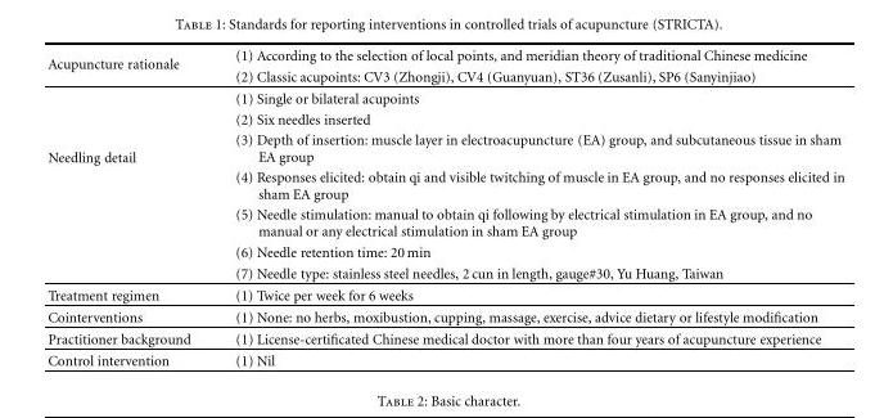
<table><thead><tr><td rowspan="2">Acupuncture rationale</td><td rowspan="2">(1) According to the selection of local points, and meridian theory of traditional Chinese medicine (2) Classic acupoints: CV3 (Zhongji), CV4 (Guanyuan), ST36 (Zusanli), SP6 (Sanyinjiao)</td></tr><tr></tr></thead><tbody><tr><td rowspan="7">Needling detail</td><td>(1) Single or bilateral acupoints</td></tr><tr><td>(2) Six needles inserted</td></tr><tr><td>(3) Depth of insertion: muscle layer in electroacupuncture (EA) group, and subcutaneous tissue in sham EA group</td></tr><tr><td>(4) Responses elicited: obtain qi and visible twitching of muscle in EA group, and no responses elicited in sham EA group</td></tr><tr><td>(5) Needle stimulation: manual to obtain qi following by electrical stimulation in EA group, and no manual or any electrical stimulation in sham EA group</td></tr><tr><td>(6) Needle retention time: 20 min</td></tr><tr><td>(7) Needle type: stainless steel needles, 2 cun in length, gauge#30, Yu Huang, Taiwan</td></tr><tr><td>Treatment regimen</td><td>(1) Twice per week for 6 weeks</td></tr><tr><td>Cointerventions</td><td>(1) None: no herbs, moxibustion, cupping, massage, exercise, advice dietary or lifestyle modification</td></tr><tr><td>Practitioner background</td><td>(1) License-certificated Chinese medical doctor with more than four years of acupuncture experience</td></tr><tr><td>Control intervention</td><td>(1) Nil</td></tr></tbody></table>